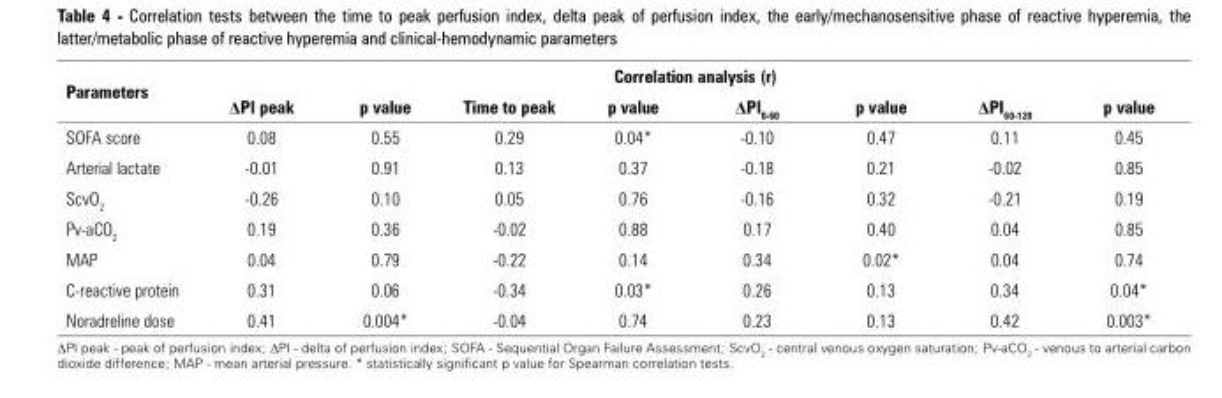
<table><thead><tr><td rowspan="2">Parameters</td><td colspan="8">Correlation analysis (r)</td></tr><tr><td>ΔPI peak</td><td>p value</td><td>Time to peak</td><td>p value</td><td>ΔPI0-60</td><td>p value</td><td>ΔPI60-120</td><td>p value</td></tr></thead><tbody><tr><td>SOFA score</td><td>0.08</td><td>0.55</td><td>0.29</td><td>0.04*</td><td>-0.10</td><td>0.47</td><td>0.11</td><td>0.45</td></tr><tr><td>Arterial lactate</td><td>-0.01</td><td>0.91</td><td>0.13</td><td>0.37</td><td>-0.18</td><td>0.21</td><td>-0.02</td><td>0.85</td></tr><tr><td>ScvO<sub>2</sub></td><td>-0.26</td><td>0.10</td><td>0.05</td><td>0.76</td><td>-0.16</td><td>0.32</td><td>-0.21</td><td>0.19</td></tr><tr><td>Pv-aCO<sub>2</sub></td><td>0.19</td><td>0.36</td><td>-0.02</td><td>0.88</td><td>0.17</td><td>0.40</td><td>0.04</td><td>0.85</td></tr><tr><td>MAP</td><td>0.04</td><td>0.79</td><td>-0.22</td><td>0.14</td><td>0.34</td><td>0.02*</td><td>0.04</td><td>0.74</td></tr><tr><td>C-reactive protein</td><td>0.31</td><td>0.06</td><td>-0.34</td><td>0.03*</td><td>0.26</td><td>0.13</td><td>0.34</td><td>0.04*</td></tr><tr><td>Noradreline dose</td><td>0.41</td><td>0.004*</td><td>-0.04</td><td>0.74</td><td>0.23</td><td>0.13</td><td>0.42</td><td>0.003*</td></tr></tbody></table>